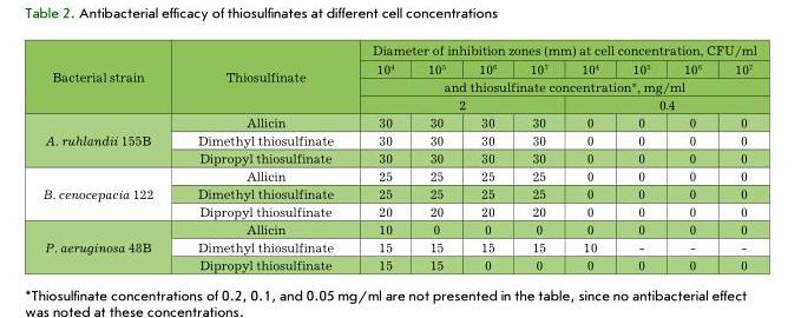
<table><thead><tr><td rowspan="4">Bacterial strain</td><td rowspan="4">Thiosulfinate</td><td colspan="8">Diameter of inhibition zones (mm) at cell concentration, CFU/ml</td></tr><tr><td>10<sup>4</sup></td><td>10<sup>5</sup></td><td>10<sup>6</sup></td><td>10<sup>7</sup></td><td>10<sup>4</sup></td><td>10<sup>5</sup></td><td>10<sup>6</sup></td><td>10<sup>7</sup></td></tr><tr><td colspan="8">and thiosulfinate concentration*, mg/ml</td></tr><tr><td colspan="4">2</td><td colspan="4">0.4</td></tr></thead><tbody><tr><td rowspan="3">A. ruhlandii 155B</td><td>Allicin</td><td>30</td><td>30</td><td>30</td><td>30</td><td>0</td><td>0</td><td>0</td><td>0</td></tr><tr><td>Dimethyl thiosulfinate</td><td>30</td><td>30</td><td>30</td><td>30</td><td>0</td><td>0</td><td>0</td><td>0</td></tr><tr><td>Dipropyl thiosulfinate</td><td>30</td><td>30</td><td>30</td><td>30</td><td>0</td><td>0</td><td>0</td><td>0</td></tr><tr><td rowspan="3">B. cenocepacia 122</td><td>Allicin</td><td>25</td><td>25</td><td>25</td><td>25</td><td>0</td><td>0</td><td>0</td><td>0</td></tr><tr><td>Dimethyl thiosulfinate</td><td>25</td><td>25</td><td>25</td><td>25</td><td>0</td><td>0</td><td>0</td><td>0</td></tr><tr><td>Dipropyl thiosulfinate</td><td>20</td><td>20</td><td>20</td><td>20</td><td>0</td><td>0</td><td>0</td><td>0</td></tr><tr><td rowspan="3">P. aeruginosa 48B</td><td>Allicin</td><td>10</td><td>0</td><td>0</td><td>0</td><td>0</td><td>0</td><td>0</td><td>0</td></tr><tr><td>Dimethyl thiosulfinate</td><td>15</td><td>15</td><td>15</td><td>15</td><td>10</td><td>-</td><td>-</td><td>-</td></tr><tr><td>Dipropyl thiosulfinate</td><td>15</td><td>15</td><td>0</td><td>0</td><td>0</td><td>0</td><td>0</td><td>0</td></tr></tbody></table>